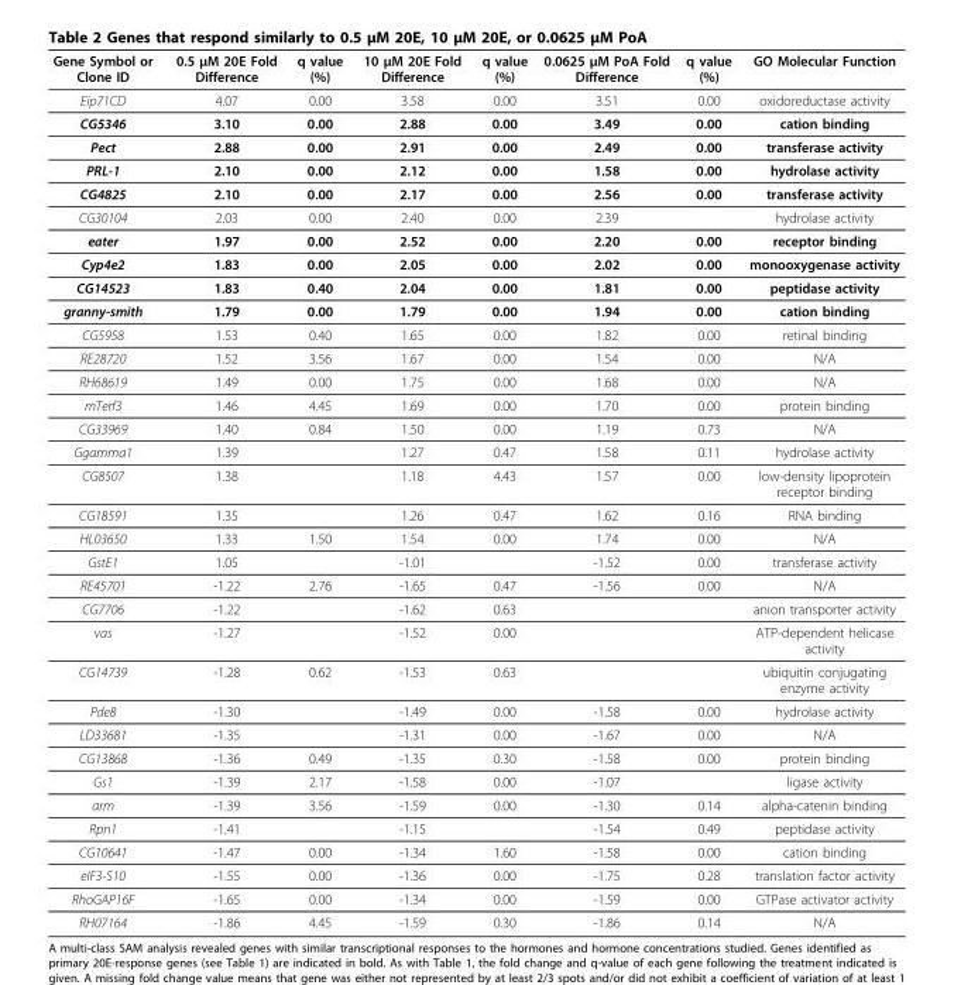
<table><thead><tr><td>Gene Symbol or Clone ID</td><td>0.5 μM 20E Fold Difference</td><td>q value (%)</td><td>10 μM 20E Fold Difference</td><td>q value (%)</td><td>0.0625 μM PoA Fold Difference</td><td>q value (%)</td><td>GO Molecular Function</td></tr></thead><tbody><tr><td>Eip71CD</td><td>4.07</td><td>0.00</td><td>3.58</td><td>0.00</td><td>3.51</td><td>0.00</td><td>oxidoreductase activity</td></tr><tr><td>CG5346</td><td>3.10</td><td>0.00</td><td>2.88</td><td>0.00</td><td>3.49</td><td>0.00</td><td>cation binding</td></tr><tr><td>Pect</td><td>2.88</td><td>0.00</td><td>2.91</td><td>0.00</td><td>2.49</td><td>0.00</td><td>transferase activity</td></tr><tr><td>PRL-1</td><td>2.10</td><td>0.00</td><td>2.12</td><td>0.00</td><td>1.58</td><td>0.00</td><td>hydrolase activity</td></tr><tr><td>CG4825</td><td>2.10</td><td>0.00</td><td>2.17</td><td>0.00</td><td>2.56</td><td>0.00</td><td>transferase activity</td></tr><tr><td>CG30104</td><td>2.03</td><td>0.00</td><td>2.40</td><td>0.00</td><td>2.39</td><td></td><td>hydrolase activity</td></tr><tr><td>eater</td><td>1.97</td><td>0.00</td><td>2.52</td><td>0.00</td><td>2.20</td><td>0.00</td><td>receptor binding</td></tr><tr><td>Cyp4e2</td><td>1.83</td><td>0.00</td><td>2.05</td><td>0.00</td><td>2.02</td><td>0.00</td><td>monooxygenase activity</td></tr><tr><td>CG14523</td><td>1.83</td><td>0.40</td><td>2.04</td><td>0.00</td><td>1.81</td><td>0.00</td><td>peptidase activity</td></tr><tr><td>granny-smith</td><td>1.79</td><td>0.00</td><td>1.79</td><td>0.00</td><td>1.94</td><td>0.00</td><td>cation binding</td></tr><tr><td>CG5958</td><td>1.53</td><td>0.40</td><td>1.65</td><td>0.00</td><td>1.82</td><td>0.00</td><td>retinal binding</td></tr><tr><td>RE28720</td><td>1.52</td><td>3.56</td><td>1.67</td><td>0.00</td><td>1.54</td><td>0.00</td><td>N/A</td></tr><tr><td>RH68619</td><td>1.49</td><td>0.00</td><td>1.75</td><td>0.00</td><td>1.68</td><td>0.00</td><td>N/A</td></tr><tr><td>mTerf3</td><td>1.46</td><td>4.45</td><td>1.69</td><td>0.00</td><td>1.70</td><td>0.00</td><td>protein binding</td></tr><tr><td>CG33969</td><td>1.40</td><td>0.84</td><td>1.50</td><td>0.00</td><td>1.19</td><td>0.73</td><td>N/A</td></tr><tr><td>Ggamma1</td><td>1.39</td><td></td><td>1.27</td><td>0.47</td><td>1.58</td><td>0.11</td><td>hydrolase activity</td></tr><tr><td>CG8507</td><td>1.38</td><td></td><td>1.18</td><td>4.43</td><td>1.57</td><td>0.00</td><td>low-density lipoprotein receptor binding</td></tr><tr><td>CG18591</td><td>1.35</td><td></td><td>1.26</td><td>0.47</td><td>1.62</td><td>0.16</td><td>RNA binding</td></tr><tr><td>HL03650</td><td>1.33</td><td>1.50</td><td>1.54</td><td>0.00</td><td>1.74</td><td>0.00</td><td>N/A</td></tr><tr><td>GstE1</td><td>1.05</td><td></td><td>-1.01</td><td></td><td>-1.52</td><td>0.00</td><td>transferase activity</td></tr><tr><td>RE45701</td><td>-1.22</td><td>2.76</td><td>-1.65</td><td>0.47</td><td>-1.56</td><td>0.00</td><td>N/A</td></tr><tr><td>CG7706</td><td>-1.22</td><td></td><td>-1.62</td><td>0.63</td><td></td><td></td><td>anion transporter activity</td></tr><tr><td>vas</td><td>-1.27</td><td></td><td>-1.52</td><td>0.00</td><td></td><td></td><td>ATP-dependent helicase activity</td></tr><tr><td>CG14739</td><td>-1.28</td><td>0.62</td><td>-1.53</td><td>0.63</td><td></td><td></td><td>ubiquitin conjugating enzyme activity</td></tr><tr><td>Pde8</td><td>-1.30</td><td></td><td>-1.49</td><td>0.00</td><td>-1.58</td><td>0.00</td><td>hydrolase activity</td></tr><tr><td>LD33681</td><td>-1.35</td><td></td><td>-1.31</td><td>0.00</td><td>-1.67</td><td>0.00</td><td>N/A</td></tr><tr><td>CG13868</td><td>-1.36</td><td>0.49</td><td>-1.35</td><td>0.30</td><td>-1.58</td><td>0.00</td><td>protein binding</td></tr><tr><td>Gs1</td><td>-1.39</td><td>2.17</td><td>-1.58</td><td>0.00</td><td>-1.07</td><td></td><td>ligase activity</td></tr><tr><td>arm</td><td>-1.39</td><td>3.56</td><td>-1.59</td><td>0.00</td><td>-1.30</td><td>0.14</td><td>alpha-catenin binding</td></tr><tr><td>Rpn1</td><td>-1.41</td><td></td><td>-1.15</td><td></td><td>-1.54</td><td>0.49</td><td>peptidase activity</td></tr><tr><td>CG10641</td><td>-1.47</td><td>0.00</td><td>-1.34</td><td>1.60</td><td>-1.58</td><td>0.00</td><td>cation binding</td></tr><tr><td>eIF3-S10</td><td>-1.55</td><td>0.00</td><td>-1.36</td><td>0.00</td><td>-1.75</td><td>0.28</td><td>translation factor activity</td></tr><tr><td>RhoGAP16F</td><td>-1.65</td><td>0.00</td><td>-1.34</td><td>0.00</td><td>-1.59</td><td>0.00</td><td>GTPase activator activity</td></tr><tr><td>RH07164</td><td>-1.86</td><td>4.45</td><td>-1.59</td><td>0.30</td><td>-1.86</td><td>0.14</td><td>N/A</td></tr></tbody></table>